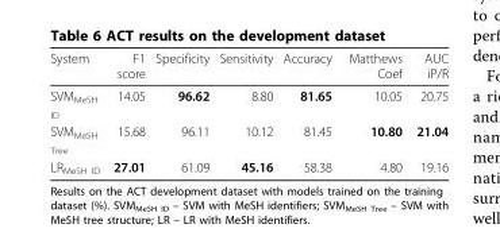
<table><thead><tr><td>System</td><td>F1 score</td><td>Specificity</td><td>Sensitivity</td><td>Accuracy</td><td>Matthews Coef</td><td>AUC iP/R</td></tr></thead><tbody><tr><td>SVM<sub>MeSH ID</sub></td><td>14.05</td><td>96.62</td><td>8.80</td><td>81.65</td><td>10.05</td><td>20.75</td></tr><tr><td>SVM<sub>MeSH Tree</sub></td><td>15.68</td><td>96.11</td><td>10.12</td><td>81.45</td><td>10.80</td><td>21.04</td></tr><tr><td>LR<sub>MeSH ID</sub></td><td>27.01</td><td>61.09</td><td>45.16</td><td>58.38</td><td>4.80</td><td>19.16</td></tr></tbody></table>